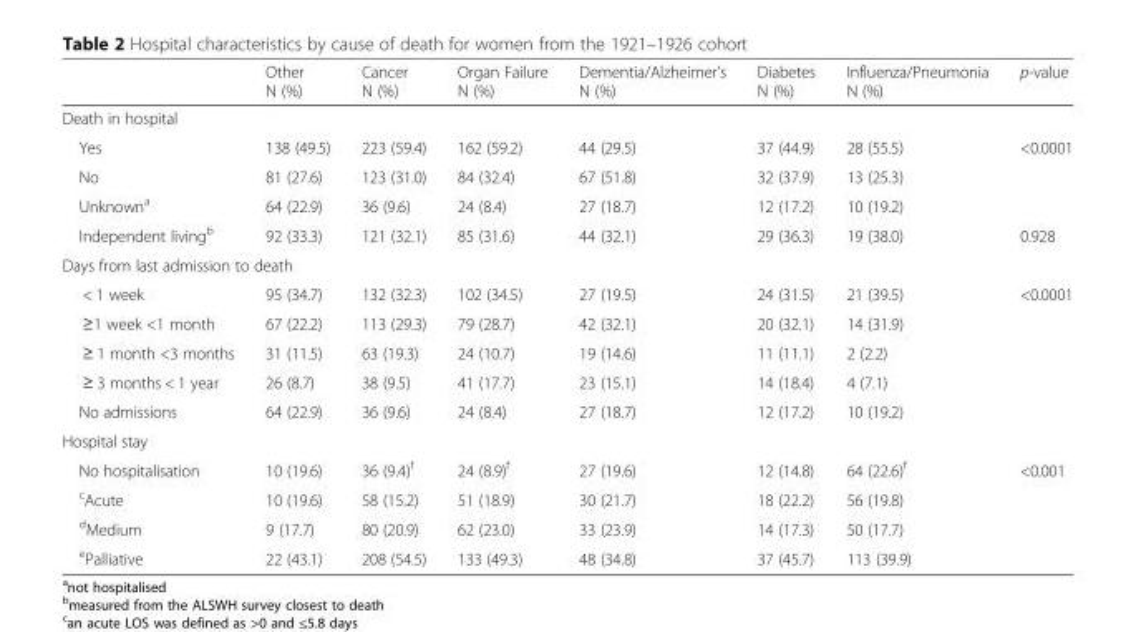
<table><thead><tr><td></td><td>Other N (%)</td><td>Cancer N (%)</td><td>Organ Failure N (%)</td><td>Dementia/Alzheimer’s N (%)</td><td>Diabetes N (%)</td><td>Influenza/Pneumonia N (%)</td><td>p-value</td></tr></thead><tbody><tr><td colspan="8">Death in hospital</td></tr><tr><td>Yes</td><td>138 (49.5)</td><td>223 (59.4)</td><td>162 (59.2)</td><td>44 (29.5)</td><td>37 (44.9)</td><td>28 (55.5)</td><td rowspan="3">&lt;0.0001</td></tr><tr><td>No</td><td>81 (27.6)</td><td>123 (31.0)</td><td>84 (32.4)</td><td>67 (51.8)</td><td>32 (37.9)</td><td>13 (25.3)</td></tr><tr><td>Unknown<sup>a</sup></td><td>64 (22.9)</td><td>36 (9.6)</td><td>24 (8.4)</td><td>27 (18.7)</td><td>12 (17.2)</td><td>10 (19.2)</td></tr><tr><td>Independent living<sup>b</sup></td><td>92 (33.3)</td><td>121 (32.1)</td><td>85 (31.6)</td><td>44 (32.1)</td><td>29 (36.3)</td><td>19 (38.0)</td><td>0.928</td></tr><tr><td colspan="8">Days from last admission to death</td></tr><tr><td>&lt; 1 week</td><td>95 (34.7)</td><td>132 (32.3)</td><td>102 (34.5)</td><td>27 (19.5)</td><td>24 (31.5)</td><td>21 (39.5)</td><td rowspan="5">&lt;0.0001</td></tr><tr><td>≥1 week &lt;1 month</td><td>67 (22.2)</td><td>113 (29.3)</td><td>79 (28.7)</td><td>42 (32.1)</td><td>20 (32.1)</td><td>14 (31.9)</td></tr><tr><td>≥ 1 month &lt;3 months</td><td>31 (11.5)</td><td>63 (19.3)</td><td>24 (10.7)</td><td>19 (14.6)</td><td>11 (11.1)</td><td>2 (2.2)</td></tr><tr><td>≥ 3 months &lt; 1 year</td><td>26 (8.7)</td><td>38 (9.5)</td><td>41 (17.7)</td><td>23 (15.1)</td><td>14 (18.4)</td><td>4 (7.1)</td></tr><tr><td>No admissions</td><td>64 (22.9)</td><td>36 (9.6)</td><td>24 (8.4)</td><td>27 (18.7)</td><td>12 (17.2)</td><td>10 (19.2)</td></tr><tr><td colspan="8">Hospital stay</td></tr><tr><td>No hospitalisation</td><td>10 (19.6)</td><td>36 (9.4)<sup>f</sup></td><td>24 (8.9)<sup>f</sup></td><td>27 (19.6)</td><td>12 (14.8)</td><td>64 (22.6)<sup>f</sup></td><td rowspan="4">&lt;0.001</td></tr><tr><td><sup>c</sup>Acute</td><td>10 (19.6)</td><td>58 (15.2)</td><td>51 (18.9)</td><td>30 (21.7)</td><td>18 (22.2)</td><td>56 (19.8)</td></tr><tr><td><sup>d</sup>Medium</td><td>9 (17.7)</td><td>80 (20.9)</td><td>62 (23.0)</td><td>33 (23.9)</td><td>14 (17.3)</td><td>50 (17.7)</td></tr><tr><td><sup>e</sup>Palliative</td><td>22 (43.1)</td><td>208 (54.5)</td><td>133 (49.3)</td><td>48 (34.8)</td><td>37 (45.7)</td><td>113 (39.9)</td></tr></tbody></table>